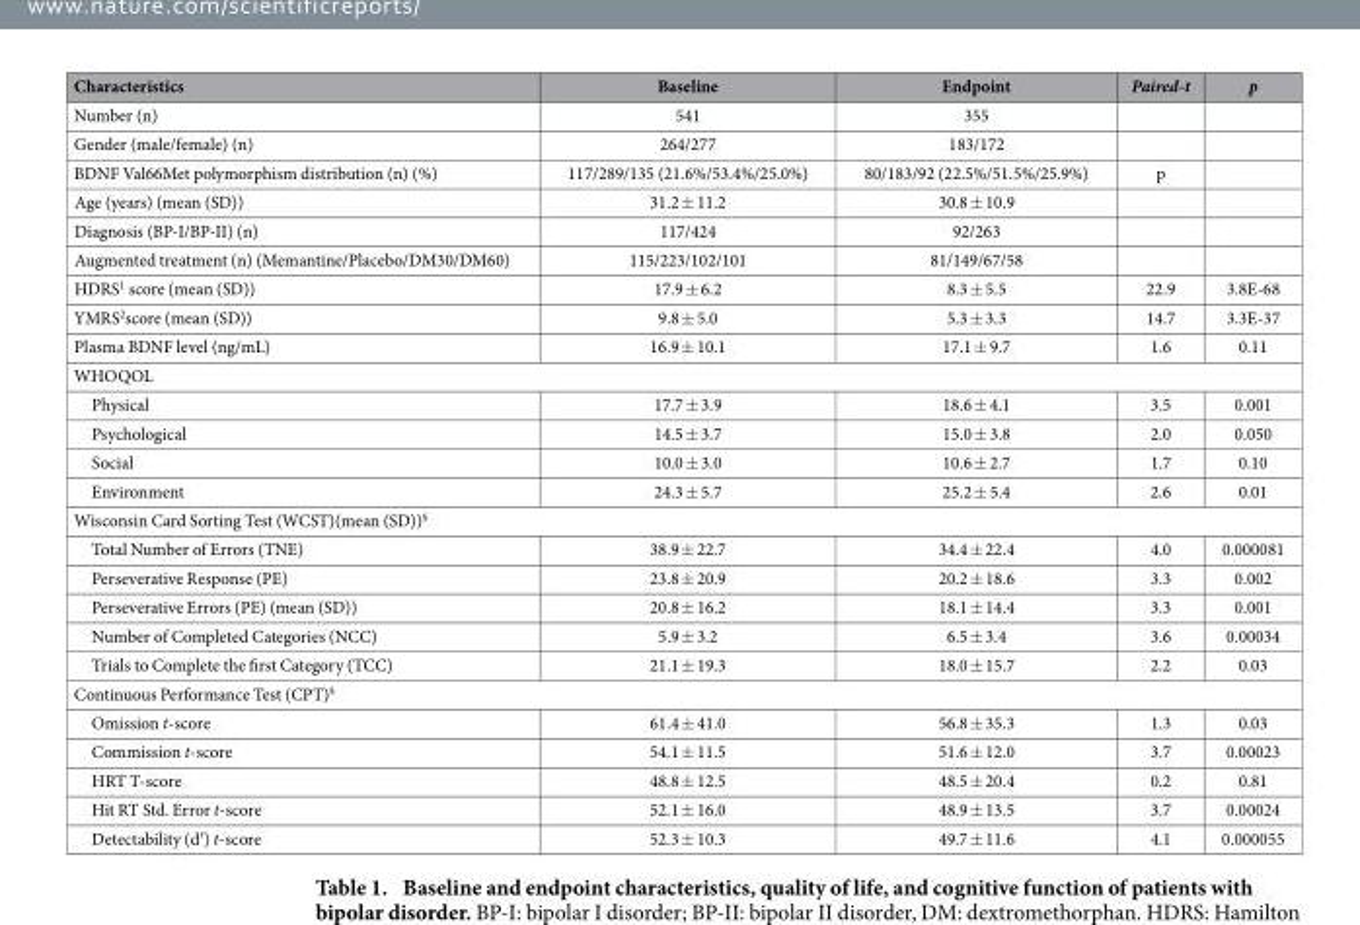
<table><thead><tr><td>Characteristics</td><td>Baseline</td><td>Endpoint</td><td>Paired-t</td><td>p</td></tr></thead><tbody><tr><td>Number (n)</td><td>541</td><td>355</td><td></td><td></td></tr><tr><td>Gender (male/female) (n)</td><td>264/277</td><td>183/172</td><td></td><td></td></tr><tr><td>BDNF Val66Met polymorphism distribution (n) (%)</td><td>117/289/135 (21.6%/53.4%/25.0%)</td><td>80/183/92 (22.5%/51.5%/25.9%)</td><td>p</td><td></td></tr><tr><td>Age (years) (mean (SD))</td><td>31.2 ± 11.2</td><td>30.8 ± 10.9</td><td></td><td></td></tr><tr><td>Diagnosis (BP-I/BP-II) (n)</td><td>117/424</td><td>92/263</td><td></td><td></td></tr><tr><td>Augmented treatment (n) (Memantine/Placebo/DM30/DM60)</td><td>115/223/102/101</td><td>81/149/67/58</td><td></td><td></td></tr><tr><td>HDRS<sup>1</sup> score (mean (SD))</td><td>17.9 ± 6.2</td><td>8.3 ± 5.5</td><td>22.9</td><td>3.8E-68</td></tr><tr><td>YMRS<sup>2</sup>score (mean (SD))</td><td>9.8 ± 5.0</td><td>5.3 ± 3.3</td><td>14.7</td><td>3.3E-37</td></tr><tr><td>Plasma BDNF level (ng/mL)</td><td>16.9 ± 10.1</td><td>17.1 ± 9.7</td><td>1.6</td><td>0.11</td></tr><tr><td colspan="5">WHOQOL</td></tr><tr><td>Physical</td><td>17.7 ± 3.9</td><td>18.6 ± 4.1</td><td>3.5</td><td>0.001</td></tr><tr><td>Psychological</td><td>14.5 ± 3.7</td><td>15.0 ± 3.8</td><td>2.0</td><td>0.050</td></tr><tr><td>Social</td><td>10.0 ± 3.0</td><td>10.6 ± 2.7</td><td>1.7</td><td>0.10</td></tr><tr><td>Environment</td><td>24.3 ± 5.7</td><td>25.2 ± 5.4</td><td>2.6</td><td>0.01</td></tr><tr><td colspan="5">Wisconsin Card Sorting Test (WCST)(mean (SD))§</td></tr><tr><td>Total Number of Errors (TNE)</td><td>38.9 ± 22.7</td><td>34.4 ± 22.4</td><td>4.0</td><td>0.000081</td></tr><tr><td>Perseverative Response (PE)</td><td>23.8 ± 20.9</td><td>20.2 ± 18.6</td><td>3.3</td><td>0.002</td></tr><tr><td>Perseverative Errors (PE) (mean (SD))</td><td>20.8 ± 16.2</td><td>18.1 ± 14.4</td><td>3.3</td><td>0.001</td></tr><tr><td>Number of Completed Categories (NCC)</td><td>5.9 ± 3.2</td><td>6.5 ± 3.4</td><td>3.6</td><td>0.00034</td></tr><tr><td>Trials to Complete the first Category (TCC)</td><td>21.1 ± 19.3</td><td>18.0 ± 15.7</td><td>2.2</td><td>0.03</td></tr><tr><td colspan="5">Continuous Performance Test (CPT)§</td></tr><tr><td>Omission t-score</td><td>61.4 ± 41.0</td><td>56.8 ± 35.3</td><td>1.3</td><td>0.03</td></tr><tr><td>Commission t-score</td><td>54.1 ± 11.5</td><td>51.6 ± 12.0</td><td>3.7</td><td>0.00023</td></tr><tr><td>HRT T-score</td><td>48.8 ± 12.5</td><td>48.5 ± 20.4</td><td>0.2</td><td>0.81</td></tr><tr><td>Hit RT Std. Error t-score</td><td>52.1 ± 16.0</td><td>48.9 ± 13.5</td><td>3.7</td><td>0.00024</td></tr><tr><td>Detectability (d′ ) t-score</td><td>52.3 ± 10.3</td><td>49.7 ± 11.6</td><td>4.1</td><td>0.000055</td></tr></tbody></table>